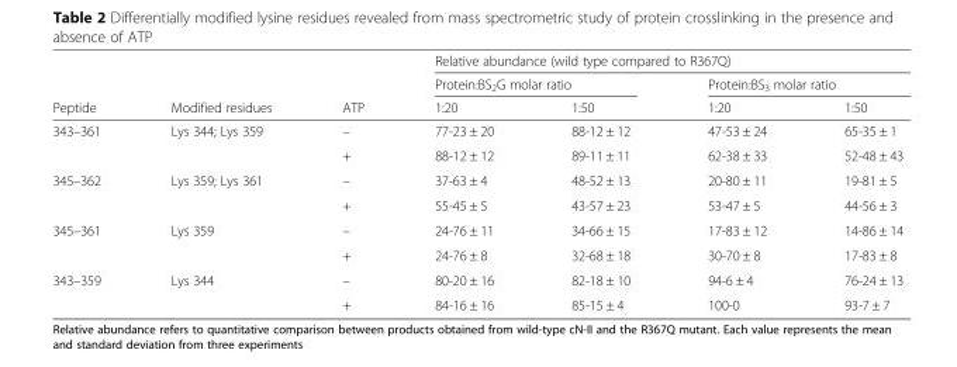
<table><thead><tr><td rowspan="3">Peptide</td><td rowspan="3">Modified residues</td><td rowspan="3">ATP</td><td colspan="4">Relative abundance (wild type compared to R367Q)</td></tr><tr><td colspan="2">Protein:BS<sub>2</sub>G molar ratio</td><td colspan="2">Protein:BS<sub>3</sub> molar ratio</td></tr><tr><td>1:20</td><td>1:50</td><td>1:20</td><td>1:50</td></tr></thead><tbody><tr><td rowspan="2">343–361</td><td rowspan="2">Lys 344; Lys 359</td><td>–</td><td>77-23 ± 20</td><td>88-12 ± 12</td><td>47-53 ± 24</td><td>65-35 ± 1</td></tr><tr><td>+</td><td>88-12 ± 12</td><td>89-11 ± 11</td><td>62-38 ± 33</td><td>52-48 ± 43</td></tr><tr><td rowspan="2">345–362</td><td rowspan="2">Lys 359; Lys 361</td><td>–</td><td>37-63 ± 4</td><td>48-52 ± 13</td><td>20-80 ± 11</td><td>19-81 ± 5</td></tr><tr><td>+</td><td>55-45 ± 5</td><td>43-57 ± 23</td><td>53-47 ± 5</td><td>44-56 ± 3</td></tr><tr><td rowspan="2">345–361</td><td rowspan="2">Lys 359</td><td>–</td><td>24-76 ± 11</td><td>34-66 ± 15</td><td>17-83 ± 12</td><td>14-86 ± 14</td></tr><tr><td>+</td><td>24-76 ± 8</td><td>32-68 ± 18</td><td>30-70 ± 8</td><td>17-83 ± 8</td></tr><tr><td rowspan="2">343–359</td><td rowspan="2">Lys 344</td><td>–</td><td>80-20 ± 16</td><td>82-18 ± 10</td><td>94-6 ± 4</td><td>76-24 ± 13</td></tr><tr><td>+</td><td>84-16 ± 16</td><td>85-15 ± 4</td><td>100-0</td><td>93-7 ± 7</td></tr></tbody></table>